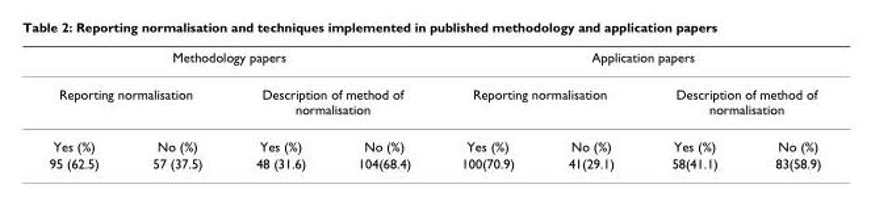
<table><thead><tr><td colspan="4">Methodology papers</td><td colspan="4">Application papers</td></tr><tr><td colspan="2">Reporting normalisation</td><td colspan="2">Description of method of normalisation</td><td colspan="2">Reporting normalisation</td><td colspan="2">Description of method of normalisation</td></tr><tr><td>Yes (%)</td><td>No (%)</td><td>Yes (%)</td><td>No (%)</td><td>Yes (%)</td><td>No (%)</td><td>Yes (%)</td><td>No (%)</td></tr></thead><tbody><tr><td>95 (62.5)</td><td>57 (37.5)</td><td>48 (31.6)</td><td>104(68.4)</td><td>100(70.9)</td><td>41(29.1)</td><td>58(41.1)</td><td>83(58.9)</td></tr></tbody></table>